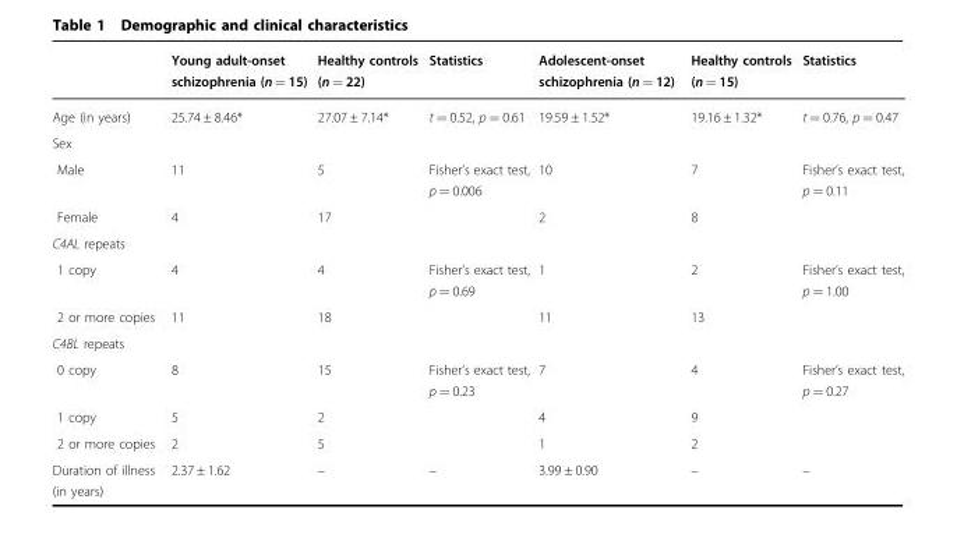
<table><thead><tr><td></td><td>Young adult-onset schizophrenia (n = 15)</td><td>Healthy controls (n = 22)</td><td>Statistics</td><td>Adolescent-onset schizophrenia (n = 12)</td><td>Healthy controls (n = 15)</td><td>Statistics</td></tr></thead><tbody><tr><td>Age (in years)</td><td>25.74 ± 8.46*</td><td>27.07 ± 7.14*</td><td>t = 0.52, p = 0.61</td><td>19.59 ± 1.52*</td><td>19.16 ± 1.32*</td><td>t = 0.76, p = 0.47</td></tr><tr><td colspan="7">Sex</td></tr><tr><td>Male</td><td>11</td><td>5</td><td>Fisher’s exact test, p = 0.006</td><td>10</td><td>7</td><td>Fisher’s exact test, p = 0.11</td></tr><tr><td>Female</td><td>4</td><td>17</td><td></td><td>2</td><td>8</td><td></td></tr><tr><td colspan="7">C4AL repeats</td></tr><tr><td>1 copy</td><td>4</td><td>4</td><td>Fisher’s exact test, p = 0.69</td><td>1</td><td>2</td><td>Fisher’s exact test, p = 1.00</td></tr><tr><td>2 or more copies</td><td>11</td><td>18</td><td></td><td>11</td><td>13</td><td></td></tr><tr><td colspan="7">C4BL repeats</td></tr><tr><td>0 copy</td><td>8</td><td>15</td><td>Fisher’s exact test, p = 0.23</td><td>7</td><td>4</td><td>Fisher’s exact test, p = 0.27</td></tr><tr><td>1 copy</td><td>5</td><td>2</td><td></td><td>4</td><td>9</td><td></td></tr><tr><td>2 or more copies</td><td>2</td><td>5</td><td></td><td>1</td><td>2</td><td></td></tr><tr><td>Duration of illness (in years)</td><td>2.37 ± 1.62</td><td>–</td><td>–</td><td>3.99 ± 0.90</td><td>–</td><td>–</td></tr></tbody></table>